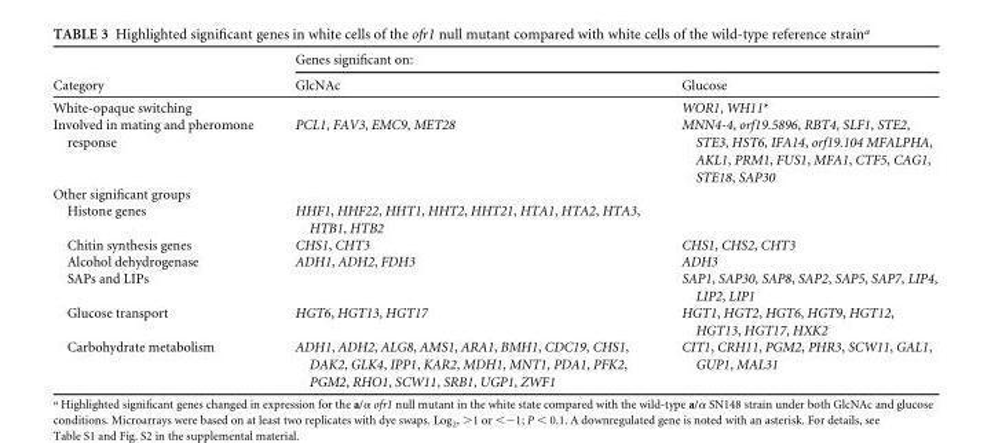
<table><thead><tr><td rowspan="2">Category</td><td colspan="2">Genes significant on:</td></tr><tr><td>GlcNAc</td><td>Glucose</td></tr></thead><tbody><tr><td>White-opaque switching</td><td></td><td>WOR1, WH11*</td></tr><tr><td>Involved in mating and pheromone response</td><td>PCL1, FAV3, EMC9, MET28</td><td>MNN4-4, orf19.5896, RBT4, SLF1, STE2, STE3, HST6, IFA14, orf19.104 MFALPHA, AKL1, PRM1, FUS1, MFA1, CTF5, CAG1, STE18, SAP30</td></tr><tr><td colspan="3">Other significant groups</td></tr><tr><td>Histone genes</td><td>HHF1, HHF22, HHT1, HHT2, HHT21, HTA1, HTA2, HTA3, HTB1, HTB2</td><td></td></tr><tr><td>Chitin synthesis genes</td><td>CHS1, CHT3</td><td>CHS1, CHS2, CHT3</td></tr><tr><td>Alcohol dehydrogenase</td><td>ADH1, ADH2, FDH3</td><td>ADH3</td></tr><tr><td>SAPs and LIPs</td><td></td><td>SAP1, SAP30, SAP8, SAP2, SAP5, SAP7, LIP4, LIP2, LIP1</td></tr><tr><td>Glucose transport</td><td>HGT6, HGT13, HGT17</td><td>HGT1, HGT2, HGT6, HGT9, HGT12, HGT13, HGT17, HXK2</td></tr><tr><td>Carbohydrate metabolism</td><td>ADH1, ADH2, ALG8, AMS1, ARA1, BMH1, CDC19, CHS1, DAK2, GLK4, IPP1, KAR2, MDH1, MNT1, PDA1, PFK2, PGM2, RHO1, SCW11, SRB1, UGP1, ZWF1</td><td>CIT1, CRH11, PGM2, PHR3, SCW11, GAL1, GUP1, MAL31</td></tr></tbody></table>